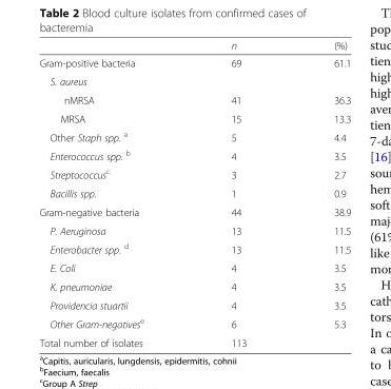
<table><thead><tr><td></td><td>n</td><td>(%)</td></tr></thead><tbody><tr><td>Gram-positive bacteria</td><td>69</td><td>61.1</td></tr><tr><td colspan="3">S. aureus</td></tr><tr><td>nMRSA</td><td>41</td><td>36.3</td></tr><tr><td>MRSA</td><td>15</td><td>13.3</td></tr><tr><td>Other Staph spp. <sup>a</sup></td><td>5</td><td>4.4</td></tr><tr><td>Enterococcus spp. <sup>b</sup></td><td>4</td><td>3.5</td></tr><tr><td>Streptococcus<sup>c</sup></td><td>3</td><td>2.7</td></tr><tr><td>Bacillis spp.</td><td>1</td><td>0.9</td></tr><tr><td>Gram-negative bacteria</td><td>44</td><td>38.9</td></tr><tr><td>P. Aeruginosa</td><td>13</td><td>11.5</td></tr><tr><td>Enterobacter spp. <sup>d</sup></td><td>13</td><td>11.5</td></tr><tr><td>E. Coli</td><td>4</td><td>3.5</td></tr><tr><td>K. pneumoniae</td><td>4</td><td>3.5</td></tr><tr><td>Providencia stuartii</td><td>4</td><td>3.5</td></tr><tr><td>Other Gram-negatives<sup>e</sup></td><td>6</td><td>5.3</td></tr><tr><td>Total number of isolates</td><td>113</td><td></td></tr></tbody></table>